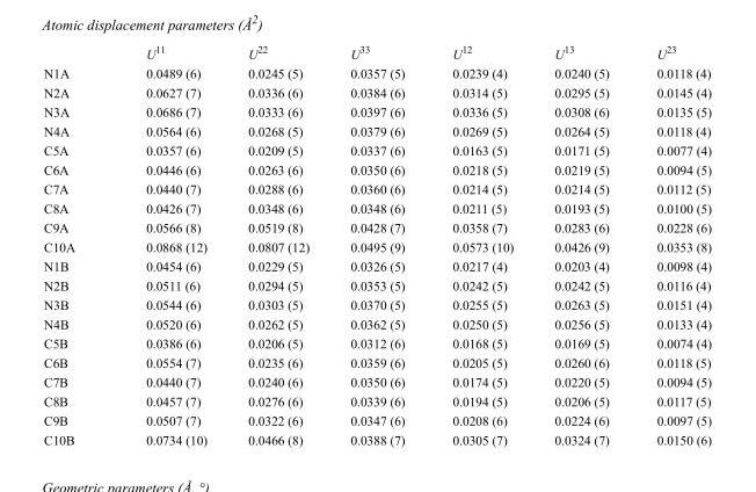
<table><thead><tr><td></td><td>U<sup>11</sup></td><td>U<sup>22</sup></td><td>U<sup>33</sup></td><td>U<sup>12</sup></td><td>U<sup>13</sup></td><td>U<sup>23</sup></td></tr></thead><tbody><tr><td>N1A</td><td>0.0489 (6)</td><td>0.0245 (5)</td><td>0.0357 (5)</td><td>0.0239 (4)</td><td>0.0240 (5)</td><td>0.0118 (4)</td></tr><tr><td>N2A</td><td>0.0627 (7)</td><td>0.0336 (6)</td><td>0.0384 (6)</td><td>0.0314 (5)</td><td>0.0295 (5)</td><td>0.0145 (4)</td></tr><tr><td>N3A</td><td>0.0686 (7)</td><td>0.0333 (6)</td><td>0.0397 (6)</td><td>0.0336 (5)</td><td>0.0308 (6)</td><td>0.0135 (5)</td></tr><tr><td>N4A</td><td>0.0564 (6)</td><td>0.0268 (5)</td><td>0.0379 (6)</td><td>0.0269 (5)</td><td>0.0264 (5)</td><td>0.0118 (4)</td></tr><tr><td>C5A</td><td>0.0357 (6)</td><td>0.0209 (5)</td><td>0.0337 (6)</td><td>0.0163 (5)</td><td>0.0171 (5)</td><td>0.0077 (4)</td></tr><tr><td>C6A</td><td>0.0446 (6)</td><td>0.0263 (6)</td><td>0.0350 (6)</td><td>0.0218 (5)</td><td>0.0219 (5)</td><td>0.0094 (5)</td></tr><tr><td>C7A</td><td>0.0440 (7)</td><td>0.0288 (6)</td><td>0.0360 (6)</td><td>0.0214 (5)</td><td>0.0214 (5)</td><td>0.0112 (5)</td></tr><tr><td>C8A</td><td>0.0426 (7)</td><td>0.0348 (6)</td><td>0.0348 (6)</td><td>0.0211 (5)</td><td>0.0193 (5)</td><td>0.0100 (5)</td></tr><tr><td>C9A</td><td>0.0566 (8)</td><td>0.0519 (8)</td><td>0.0428 (7)</td><td>0.0358 (7)</td><td>0.0283 (6)</td><td>0.0228 (6)</td></tr><tr><td>C10A</td><td>0.0868 (12)</td><td>0.0807 (12)</td><td>0.0495 (9)</td><td>0.0573 (10)</td><td>0.0426 (9)</td><td>0.0353 (8)</td></tr><tr><td>N1B</td><td>0.0454 (6)</td><td>0.0229 (5)</td><td>0.0326 (5)</td><td>0.0217 (4)</td><td>0.0203 (4)</td><td>0.0098 (4)</td></tr><tr><td>N2B</td><td>0.0511 (6)</td><td>0.0294 (5)</td><td>0.0353 (5)</td><td>0.0242 (5)</td><td>0.0242 (5)</td><td>0.0116 (4)</td></tr><tr><td>N3B</td><td>0.0544 (6)</td><td>0.0303 (5)</td><td>0.0370 (5)</td><td>0.0255 (5)</td><td>0.0263 (5)</td><td>0.0151 (4)</td></tr><tr><td>N4B</td><td>0.0520 (6)</td><td>0.0262 (5)</td><td>0.0362 (5)</td><td>0.0250 (5)</td><td>0.0256 (5)</td><td>0.0133 (4)</td></tr><tr><td>C5B</td><td>0.0386 (6)</td><td>0.0206 (5)</td><td>0.0312 (6)</td><td>0.0168 (5)</td><td>0.0169 (5)</td><td>0.0074 (4)</td></tr><tr><td>C6B</td><td>0.0554 (7)</td><td>0.0235 (6)</td><td>0.0359 (6)</td><td>0.0205 (5)</td><td>0.0260 (6)</td><td>0.0118 (5)</td></tr><tr><td>C7B</td><td>0.0440 (7)</td><td>0.0240 (6)</td><td>0.0350 (6)</td><td>0.0174 (5)</td><td>0.0220 (5)</td><td>0.0094 (5)</td></tr><tr><td>C8B</td><td>0.0457 (7)</td><td>0.0276 (6)</td><td>0.0339 (6)</td><td>0.0194 (5)</td><td>0.0206 (5)</td><td>0.0117 (5)</td></tr><tr><td>C9B</td><td>0.0507 (7)</td><td>0.0322 (6)</td><td>0.0347 (6)</td><td>0.0208 (6)</td><td>0.0224 (6)</td><td>0.0097 (5)</td></tr><tr><td>C10B</td><td>0.0734 (10)</td><td>0.0466 (8)</td><td>0.0388 (7)</td><td>0.0305 (7)</td><td>0.0324 (7)</td><td>0.0150 (6)</td></tr></tbody></table>